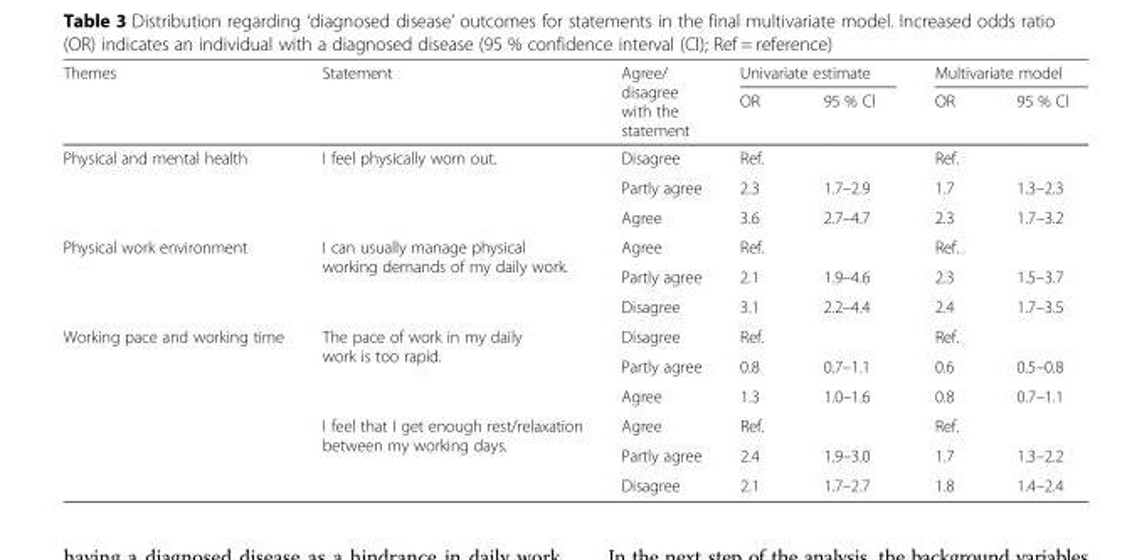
<table><thead><tr><td rowspan="2">Themes</td><td rowspan="2">Statement</td><td rowspan="2">Agree/ disagree with the statement</td><td colspan="2">Univariate estimate</td><td colspan="2">Multivariate model</td></tr><tr><td>OR</td><td>95 % Cl</td><td>OR</td><td>95 % Cl</td></tr></thead><tbody><tr><td rowspan="3">Physical and mental health</td><td rowspan="3">I feel physically worn out.</td><td>Disagree</td><td>Ref.</td><td></td><td>Ref.</td><td></td></tr><tr><td>Partly agree</td><td>2.3</td><td>1.7–2.9</td><td>1.7</td><td>1.3–2.3</td></tr><tr><td>Agree</td><td>3.6</td><td>2.7–4.7</td><td>2.3</td><td>1.7–3.2</td></tr><tr><td rowspan="3">Physical work environment</td><td rowspan="3">I can usually manage physical working demands of my daily work.</td><td>Agree</td><td>Ref.</td><td></td><td>Ref.</td><td></td></tr><tr><td>Partly agree</td><td>2.1</td><td>1.9–4.6</td><td>2.3</td><td>1.5–3.7</td></tr><tr><td>Disagree</td><td>3.1</td><td>2.2–4.4</td><td>2.4</td><td>1.7–3.5</td></tr><tr><td rowspan="6">Working pace and working time</td><td rowspan="3">The pace of work in my daily work is too rapid.</td><td>Disagree</td><td>Ref.</td><td></td><td>Ref.</td><td></td></tr><tr><td>Partly agree</td><td>0.8</td><td>0.7–1.1</td><td>0.6</td><td>0.5–0.8</td></tr><tr><td>Agree</td><td>1.3</td><td>1.0–1.6</td><td>0.8</td><td>0.7–1.1</td></tr><tr><td rowspan="3">I feel that I get enough rest/relaxation between my working days.</td><td>Agree</td><td>Ref.</td><td></td><td>Ref.</td><td></td></tr><tr><td>Partly agree</td><td>2.4</td><td>1.9–3.0</td><td>1.7</td><td>1.3–2.2</td></tr><tr><td>Disagree</td><td>2.1</td><td>1.7–2.7</td><td>1.8</td><td>1.4–2.4</td></tr></tbody></table>